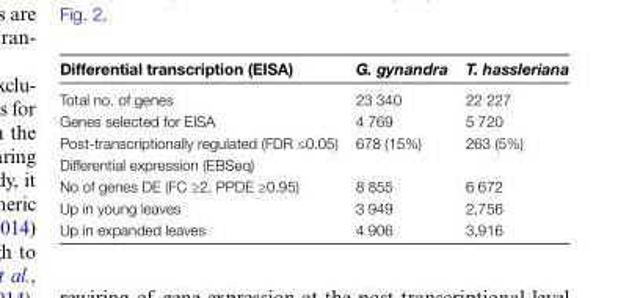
<table><thead><tr><td>Differential transcription (EISA)</td><td>G. gynandra</td><td>T. hassleriana</td></tr></thead><tbody><tr><td>Total no. of genes</td><td>23 340</td><td>22 227</td></tr><tr><td>Genes selected for EISA</td><td>4 769</td><td>5 720</td></tr><tr><td>Post-transcriptionally regulated (FDR ≤0.05)</td><td>678 (15%)</td><td>263 (5%)</td></tr><tr><td colspan="3">Differential expression (EBSeq)</td></tr><tr><td>No of genes DE (FC ≥2, PPDE ≥0.95)</td><td>8 855</td><td>6 672</td></tr><tr><td>Up in young leaves</td><td>3 949</td><td>2,756</td></tr><tr><td>Up in expanded leaves</td><td>4 906</td><td>3,916</td></tr></tbody></table>